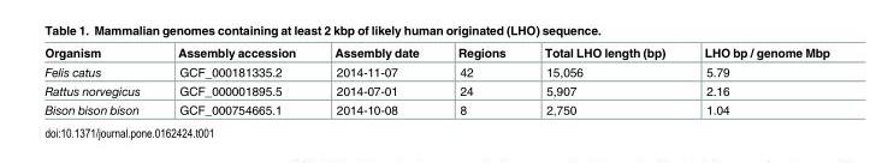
<table><thead><tr><td>Organism</td><td>Assembly accession</td><td>Assembly date</td><td>Regions</td><td>Total LHO length (bp)</td><td>LHO bp / genome Mbp</td></tr></thead><tbody><tr><td>Felis catus</td><td>GCF_000181335.2</td><td>2014-11-07</td><td>42</td><td>15,056</td><td>5.79</td></tr><tr><td>Rattus norvegicus</td><td>GCF_000001895.5</td><td>2014-07-01</td><td>24</td><td>5,907</td><td>2.16</td></tr><tr><td>Bison bison bison</td><td>GCF_000754665.1</td><td>2014-10-08</td><td>8</td><td>2,750</td><td>1.04</td></tr></tbody></table>